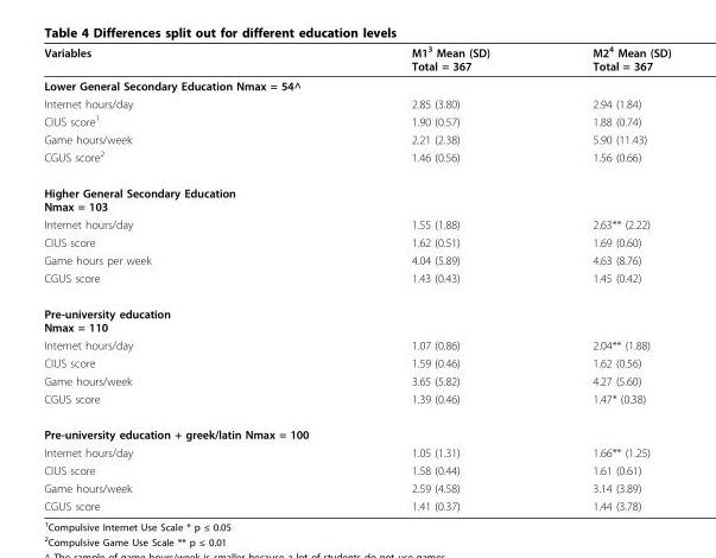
<table><thead><tr><td>Variables</td><td>M1<sup>3</sup> Mean (SD) Total = 367</td><td>M2<sup>4</sup> Mean (SD) Total = 367</td></tr></thead><tbody><tr><td colspan="3">Lower General Secondary Education Nmax = 54^</td></tr><tr><td>Internet hours/day</td><td>2.85 (3.80)</td><td>2.94 (1.84)</td></tr><tr><td>CIUS score<sup>1</sup></td><td>1.90 (0.57)</td><td>1.88 (0.74)</td></tr><tr><td>Game hours/week</td><td>2.21 (2.38)</td><td>5.90 (11.43)</td></tr><tr><td>CGUS score<sup>2</sup></td><td>1.46 (0.56)</td><td>1.56 (0.66)</td></tr><tr><td colspan="3">Higher General Secondary Education Nmax = 103</td></tr><tr><td>Internet hours/day</td><td>1.55 (1.88)</td><td>2.63** (2.22)</td></tr><tr><td>CIUS score</td><td>1.62 (0.51)</td><td>1.69 (0.60)</td></tr><tr><td>Game hours per week</td><td>4.04 (5.89)</td><td>4.63 (8.76)</td></tr><tr><td>CGUS score</td><td>1.43 (0.43)</td><td>1.45 (0.42)</td></tr><tr><td colspan="3">Pre-university education Nmax = 110</td></tr><tr><td>Internet hours/day</td><td>1.07 (0.86)</td><td>2.04** (1.88)</td></tr><tr><td>CIUS score</td><td>1.59 (0.46)</td><td>1.62 (0.56)</td></tr><tr><td>Game hours/week</td><td>3.65 (5.82)</td><td>4.27 (5.60)</td></tr><tr><td>CGUS score</td><td>1.39 (0.46)</td><td>1.47* (0.38)</td></tr><tr><td colspan="3">Pre-university education + greek/latin Nmax = 100</td></tr><tr><td>Internet hours/day</td><td>1.05 (1.31)</td><td>1.66** (1.25)</td></tr><tr><td>CIUS score</td><td>1.58 (0.44)</td><td>1.61 (0.61)</td></tr><tr><td>Game hours/week</td><td>2.59 (4.58)</td><td>3.14 (3.89)</td></tr><tr><td>CGUS score</td><td>1.41 (0.37)</td><td>1.44 (3.78)</td></tr></tbody></table>